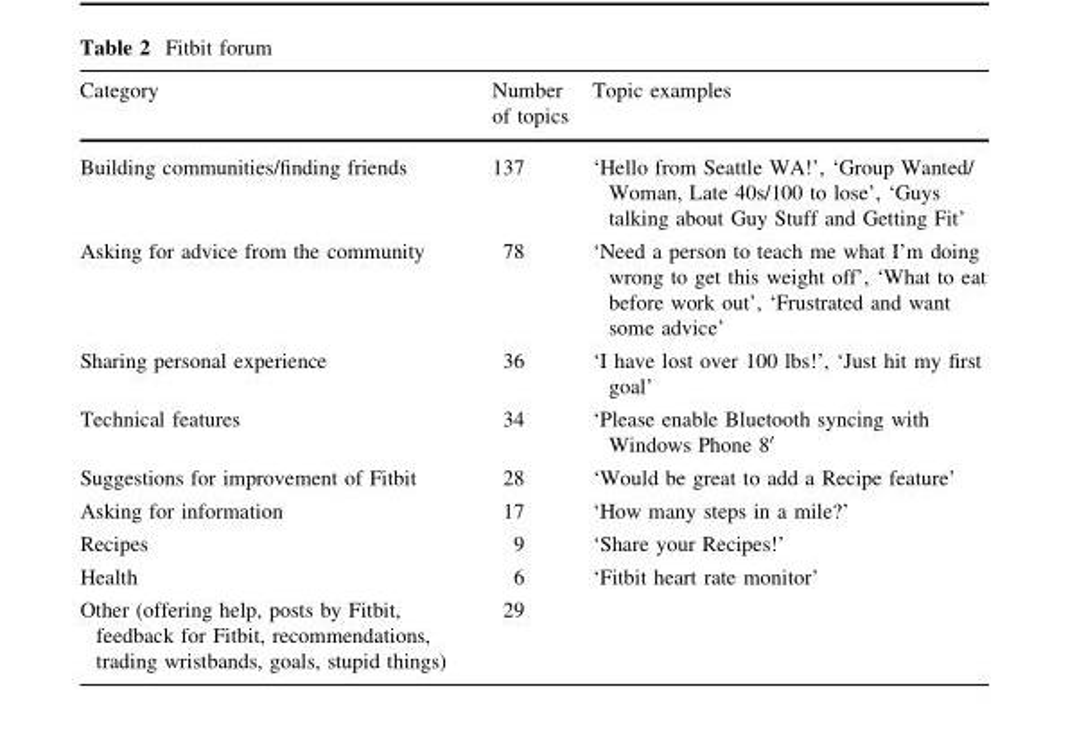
<table><thead><tr><td>Category</td><td>Number of topics</td><td>Topic examples</td></tr></thead><tbody><tr><td>Building communities/finding friends</td><td>137</td><td>‘Hello from Seattle WA!’, ‘Group Wanted/ Woman, Late 40s/100 to lose’, ‘Guys talking about Guy Stuff and Getting Fit’</td></tr><tr><td>Asking for advice from the community</td><td>78</td><td>‘Need a person to teach me what I’m doing wrong to get this weight off’, ‘What to eat before work out’, ‘Frustrated and want some advice’</td></tr><tr><td>Sharing personal experience</td><td>36</td><td>‘I have lost over 100 lbs!’, ‘Just hit my first goal’</td></tr><tr><td>Technical features</td><td>34</td><td>‘Please enable Bluetooth syncing with Windows Phone 8′</td></tr><tr><td>Suggestions for improvement of Fitbit</td><td>28</td><td>‘Would be great to add a Recipe feature’</td></tr><tr><td>Asking for information</td><td>17</td><td>‘How many steps in a mile?’</td></tr><tr><td>Recipes</td><td>9</td><td>‘Share your Recipes!’</td></tr><tr><td>Health</td><td>6</td><td>‘Fitbit heart rate monitor’</td></tr><tr><td>Other (offering help, posts by Fitbit, feedback for Fitbit, recommendations, trading wristbands, goals, stupid things)</td><td>29</td><td></td></tr></tbody></table>